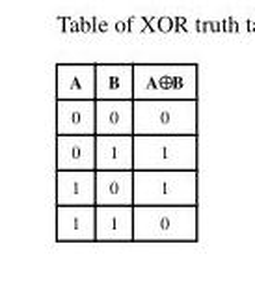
<table><thead><tr><td>A</td><td>B</td><td>A⨁B</td></tr></thead><tbody><tr><td>0</td><td>0</td><td>0</td></tr><tr><td>0</td><td>1</td><td>1</td></tr><tr><td>1</td><td>0</td><td>1</td></tr><tr><td>1</td><td>1</td><td>0</td></tr></tbody></table>